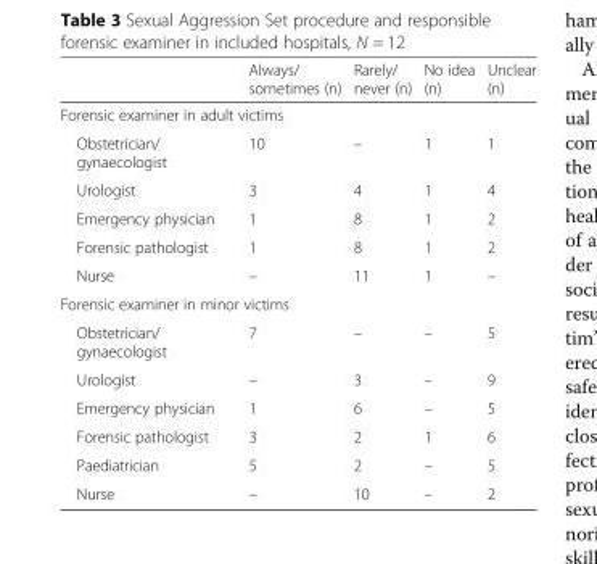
<table><thead><tr><td></td><td>Always/ sometimes (n)</td><td>Rarely/ never (n)</td><td>No idea (n)</td><td>Unclear (n)</td></tr></thead><tbody><tr><td colspan="5">Forensic examiner in adult victims</td></tr><tr><td>Obstetrician/ gynaecologist</td><td>10</td><td>–</td><td>1</td><td>1</td></tr><tr><td>Urologist</td><td>3</td><td>4</td><td>1</td><td>4</td></tr><tr><td>Emergency physician</td><td>1</td><td>8</td><td>1</td><td>2</td></tr><tr><td>Forensic pathologist</td><td>1</td><td>8</td><td>1</td><td>2</td></tr><tr><td>Nurse</td><td>–</td><td>11</td><td>1</td><td>–</td></tr><tr><td colspan="5">Forensic examiner in minor victims</td></tr><tr><td>Obstetrician/ gynaecologist</td><td>7</td><td>–</td><td>–</td><td>5</td></tr><tr><td>Urologist</td><td>–</td><td>3</td><td>–</td><td>9</td></tr><tr><td>Emergency physician</td><td>1</td><td>6</td><td>–</td><td>5</td></tr><tr><td>Forensic pathologist</td><td>3</td><td>2</td><td>1</td><td>6</td></tr><tr><td>Paediatrician</td><td>5</td><td>2</td><td>–</td><td>5</td></tr><tr><td>Nurse</td><td>–</td><td>10</td><td>–</td><td>2</td></tr></tbody></table>